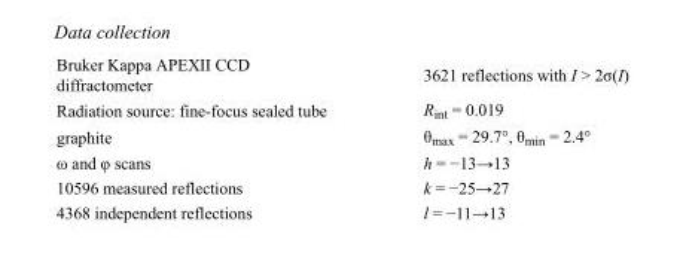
<table><tbody><tr><td>Bruker Kappa APEXII CCD diffractometer</td><td>3621 reflections with I &gt; 2σ(I)</td></tr><tr><td>Radiation source: fine-focus sealed tube</td><td>R<sub>int</sub> = 0.019</td></tr><tr><td>graphite</td><td>θ<sub>max</sub> = 29.7°, θ<sub>min</sub> = 2.4°</td></tr><tr><td>ω and φ scans</td><td>h = −13→13</td></tr><tr><td>10596 measured reflections</td><td>k = −25→27</td></tr><tr><td>4368 independent reflections</td><td>l = −11→13</td></tr></tbody></table>